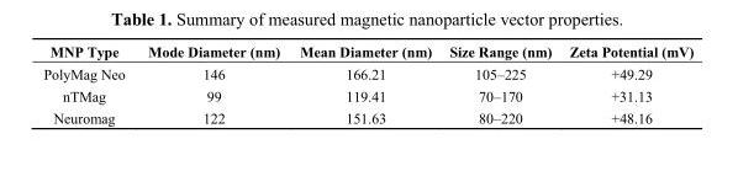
<table><thead><tr><td>MNP Type</td><td>Mode Diameter (nm)</td><td>Mean Diameter (nm)</td><td>Size Range (nm)</td><td>Zeta Potential (mV)</td></tr></thead><tbody><tr><td>PolyMag Neo</td><td>146</td><td>166.21</td><td>105–225</td><td>+49.29</td></tr><tr><td>nTMag</td><td>99</td><td>119.41</td><td>70–170</td><td>+31.13</td></tr><tr><td>Neuromag</td><td>122</td><td>151.63</td><td>80–220</td><td>+48.16</td></tr></tbody></table>